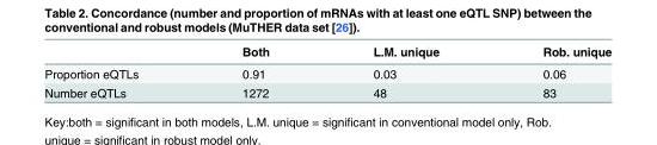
<table><thead><tr><td></td><td>Both</td><td>L.M. unique</td><td>Rob. unique</td></tr></thead><tbody><tr><td>Proportion eQTLs</td><td>0.91</td><td>0.03</td><td>0.06</td></tr><tr><td>Number eQTLs</td><td>1272</td><td>48</td><td>83</td></tr></tbody></table>